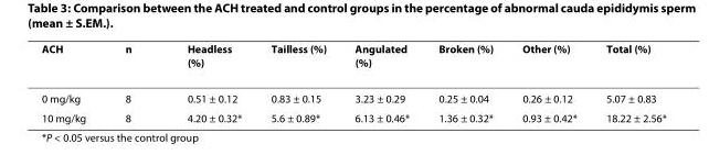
<table><thead><tr><td>ACH</td><td>n</td><td>Headless (%)</td><td>Tailless (%)</td><td>Angulated (%)</td><td>Broken (%)</td><td>Other (%)</td><td>Total (%)</td></tr></thead><tbody><tr><td>0 mg/kg</td><td>8</td><td>0.51 ± 0.12</td><td>0.83 ± 0.15</td><td>3.23 ± 0.29</td><td>0.25 ± 0.04</td><td>0.26 ± 0.12</td><td>5.07 ± 0.83</td></tr><tr><td>10 mg/kg</td><td>8</td><td>4.20 ± 0.32*</td><td>5.6 ± 0.89*</td><td>6.13 ± 0.46*</td><td>1.36 ± 0.32*</td><td>0.93 ± 0.42*</td><td>18.22 ± 2.56*</td></tr></tbody></table>